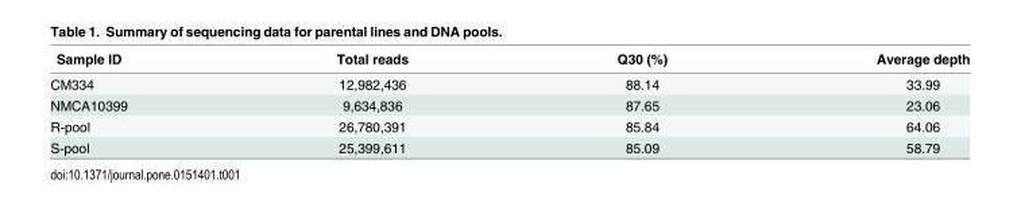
<table><thead><tr><td>Sample ID</td><td>Total reads</td><td>Q30 (%)</td><td>Average depth</td></tr></thead><tbody><tr><td>CM334</td><td>12,982,436</td><td>88.14</td><td>33.99</td></tr><tr><td>NMCA10399</td><td>9,634,836</td><td>87.65</td><td>23.06</td></tr><tr><td>R-pool</td><td>26,780,391</td><td>85.84</td><td>64.06</td></tr><tr><td>S-pool</td><td>25,399,611</td><td>85.09</td><td>58.79</td></tr></tbody></table>